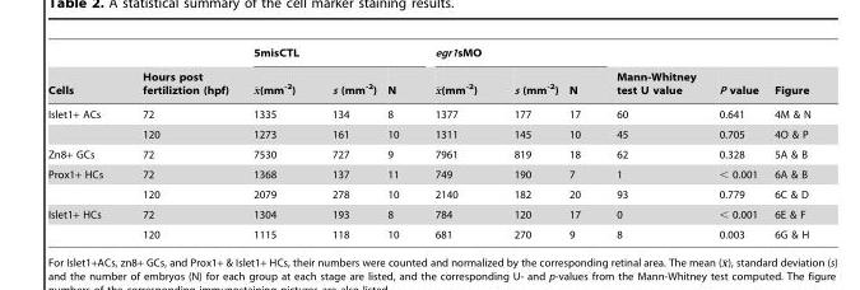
<table><thead><tr><td rowspan="2">Cells</td><td rowspan="2">Hours post fertiliztion (hpf)</td><td colspan="3">5misCTL</td><td colspan="3">egr1sMO</td><td rowspan="2">Mann-Whitney test U value</td><td rowspan="2">P value</td><td rowspan="2">Figure</td></tr><tr><td>�x(mm-2)</td><td>s (mm<sup>-2</sup>)</td><td>N</td><td>�x(mm-2)</td><td>s (mm<sup>-2</sup>)</td><td>N</td></tr></thead><tbody><tr><td rowspan="2">Islet1+ ACs</td><td>72</td><td>1335</td><td>134</td><td>8</td><td>1377</td><td>177</td><td>17</td><td>60</td><td>0.641</td><td>4M &amp; N</td></tr><tr><td>120</td><td>1273</td><td>161</td><td>10</td><td>1311</td><td>145</td><td>10</td><td>45</td><td>0.705</td><td>4O &amp; P</td></tr><tr><td>Zn8+ GCs</td><td>72</td><td>7530</td><td>727</td><td>9</td><td>7961</td><td>819</td><td>18</td><td>62</td><td>0.328</td><td>5A &amp; B</td></tr><tr><td rowspan="2">Prox1+ HCs</td><td>72</td><td>1368</td><td>137</td><td>11</td><td>749</td><td>190</td><td>7</td><td>1</td><td>&lt; 0.001</td><td>6A &amp; B</td></tr><tr><td>120</td><td>2079</td><td>278</td><td>10</td><td>2140</td><td>182</td><td>20</td><td>93</td><td>0.779</td><td>6C &amp; D</td></tr><tr><td rowspan="2">Islet1+ HCs</td><td>72</td><td>1304</td><td>193</td><td>8</td><td>784</td><td>120</td><td>17</td><td>0</td><td>&lt; 0.001</td><td>6E &amp; F</td></tr><tr><td>120</td><td>1115</td><td>118</td><td>10</td><td>681</td><td>270</td><td>9</td><td>8</td><td>0.003</td><td>6G &amp; H</td></tr></tbody></table>